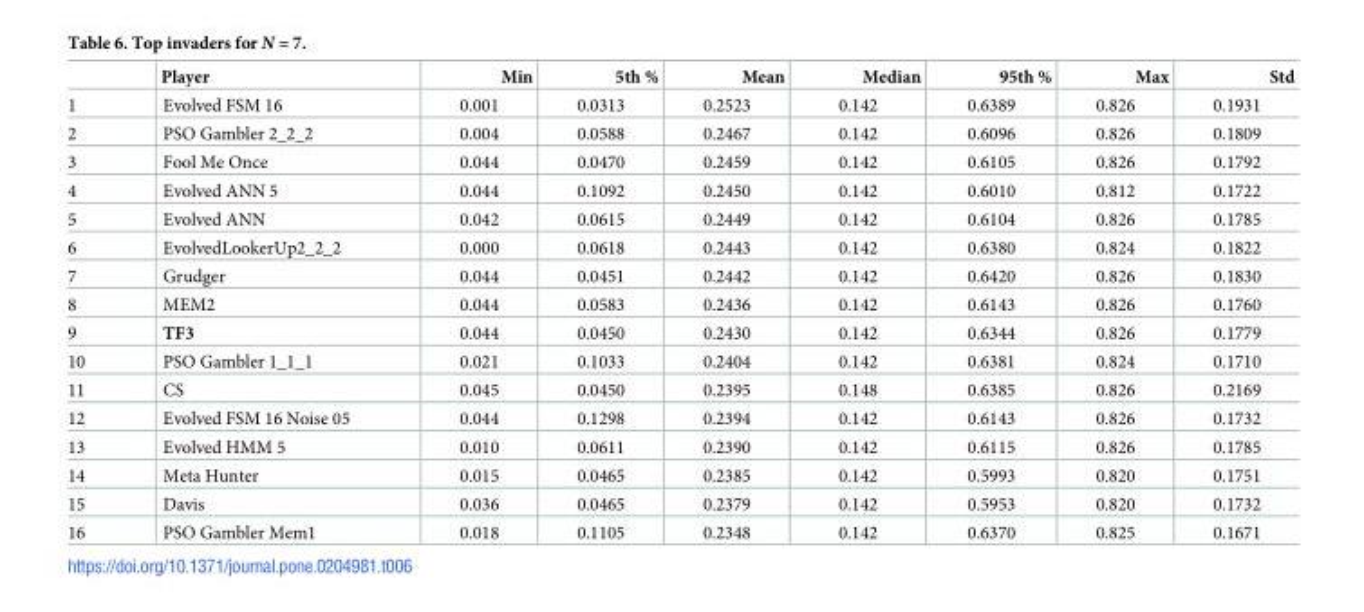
<table><thead><tr><td></td><td>Player</td><td>Min</td><td>5th %</td><td>Mean</td><td>Median</td><td>95th %</td><td>Max</td><td>Std</td></tr></thead><tbody><tr><td>1</td><td>Evolved FSM 16</td><td>0.001</td><td>0.0313</td><td>0.2523</td><td>0.142</td><td>0.6389</td><td>0.826</td><td>0.1931</td></tr><tr><td>2</td><td>PSO Gambler 2_2_2</td><td>0.004</td><td>0.0588</td><td>0.2467</td><td>0.142</td><td>0.6096</td><td>0.826</td><td>0.1809</td></tr><tr><td>3</td><td>Fool Me Once</td><td>0.044</td><td>0.0470</td><td>0.2459</td><td>0.142</td><td>0.6105</td><td>0.826</td><td>0.1792</td></tr><tr><td>4</td><td>Evolved ANN 5</td><td>0.044</td><td>0.1092</td><td>0.2450</td><td>0.142</td><td>0.6010</td><td>0.812</td><td>0.1722</td></tr><tr><td>5</td><td>Evolved ANN</td><td>0.042</td><td>0.0615</td><td>0.2449</td><td>0.142</td><td>0.6104</td><td>0.826</td><td>0.1785</td></tr><tr><td>6</td><td>EvolvedLookerUp2_2_2</td><td>0.000</td><td>0.0618</td><td>0.2443</td><td>0.142</td><td>0.6380</td><td>0.824</td><td>0.1822</td></tr><tr><td>7</td><td>Grudger</td><td>0.044</td><td>0.0451</td><td>0.2442</td><td>0.142</td><td>0.6420</td><td>0.826</td><td>0.1830</td></tr><tr><td>8</td><td>MEM2</td><td>0.044</td><td>0.0583</td><td>0.2436</td><td>0.142</td><td>0.6143</td><td>0.826</td><td>0.1760</td></tr><tr><td>9</td><td>TF3</td><td>0.044</td><td>0.0450</td><td>0.2430</td><td>0.142</td><td>0.6344</td><td>0.826</td><td>0.1779</td></tr><tr><td>10</td><td>PSO Gambler 1_1_1</td><td>0.021</td><td>0.1033</td><td>0.2404</td><td>0.142</td><td>0.6381</td><td>0.824</td><td>0.1710</td></tr><tr><td>11</td><td>CS</td><td>0.045</td><td>0.0450</td><td>0.2395</td><td>0.148</td><td>0.6385</td><td>0.826</td><td>0.2169</td></tr><tr><td>12</td><td>Evolved FSM 16 Noise 05</td><td>0.044</td><td>0.1298</td><td>0.2394</td><td>0.142</td><td>0.6143</td><td>0.826</td><td>0.1732</td></tr><tr><td>13</td><td>Evolved HMM 5</td><td>0.010</td><td>0.0611</td><td>0.2390</td><td>0.142</td><td>0.6115</td><td>0.826</td><td>0.1785</td></tr><tr><td>14</td><td>Meta Hunter</td><td>0.015</td><td>0.0465</td><td>0.2385</td><td>0.142</td><td>0.5993</td><td>0.820</td><td>0.1751</td></tr><tr><td>15</td><td>Davis</td><td>0.036</td><td>0.0465</td><td>0.2379</td><td>0.142</td><td>0.5953</td><td>0.820</td><td>0.1732</td></tr><tr><td>16</td><td>PSO Gambler Mem1</td><td>0.018</td><td>0.1105</td><td>0.2348</td><td>0.142</td><td>0.6370</td><td>0.825</td><td>0.1671</td></tr></tbody></table>